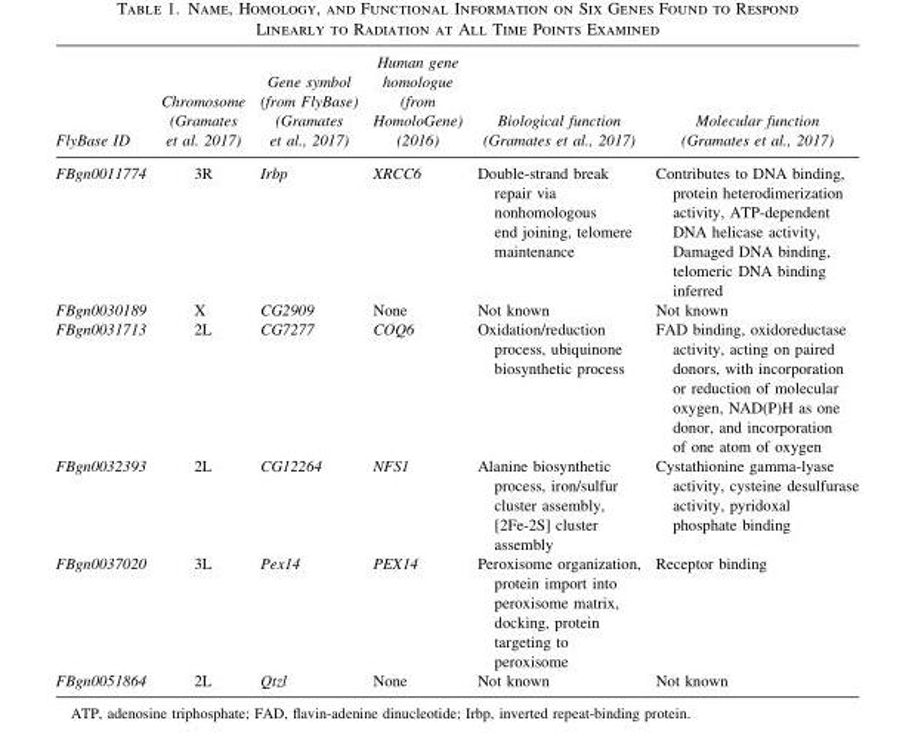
<table><thead><tr><td>FlyBase ID</td><td>Chromosome (Gramates et al. 2017)</td><td>Gene symbol (from FlyBase) (Gramates et al., 2017)</td><td>Human gene homologue (from HomoloGene) (2016)</td><td>Biological function (Gramates et al., 2017)</td><td>Molecular function (Gramates et al., 2017)</td></tr></thead><tbody><tr><td>FBgn0011774</td><td>3R</td><td>Irbp</td><td>XRCC6</td><td>Double-strand break repair via nonhomologous end joining, telomere maintenance</td><td>Contributes to DNA binding, protein heterodimerization activity, ATP-dependent DNA helicase activity, Damaged DNA binding, telomeric DNA binding inferred</td></tr><tr><td>FBgn0030189</td><td>X</td><td>CG2909</td><td>None</td><td>Not known</td><td>Not known</td></tr><tr><td>FBgn0031713</td><td>2L</td><td>CG7277</td><td>COQ6</td><td>Oxidation/reduction process, ubiquinone biosynthetic process</td><td>FAD binding, oxidoreductase activity, acting on paired donors, with incorporation or reduction of molecular oxygen, NAD(P)H as one donor, and incorporation of one atom of oxygen</td></tr><tr><td>FBgn0032393</td><td>2L</td><td>CG12264</td><td>NFS1</td><td>Alanine biosynthetic process, iron/sulfur cluster assembly, [2Fe-2S] cluster assembly</td><td>Cystathionine gamma-lyase activity, cysteine desulfurase activity, pyridoxal phosphate binding</td></tr><tr><td>FBgn0037020</td><td>3L</td><td>Pex14</td><td>PEX14</td><td>Peroxisome organization, protein import into peroxisome matrix, docking, protein targeting to peroxisome</td><td>Receptor binding</td></tr><tr><td>FBgn0051864</td><td>2L</td><td>Qtzl</td><td>None</td><td>Not known</td><td>Not known</td></tr></tbody></table>